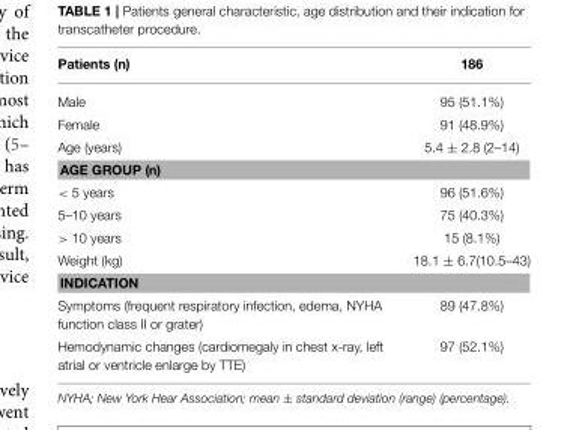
<table><thead><tr><td>Patients (n)</td><td>186</td></tr></thead><tbody><tr><td>Male</td><td>95 (51.1%)</td></tr><tr><td>Female</td><td>91 (48.9%)</td></tr><tr><td>Age (years)</td><td>5.4 ± 2.8 (2–14)</td></tr><tr><td colspan="2">AGE GROUP (n)</td></tr><tr><td>&lt; 5 years</td><td>96 (51.6%)</td></tr><tr><td>5–10 years</td><td>75 (40.3%)</td></tr><tr><td>&gt; 10 years</td><td>15 (8.1%)</td></tr><tr><td>Weight (kg)</td><td>18.1 ± 6.7(10.5–43)</td></tr><tr><td colspan="2">INDICATION</td></tr><tr><td>Symptoms (frequent respiratory infection, edema, NYHA function class II or grater)</td><td>89 (47.8%)</td></tr><tr><td>Hemodynamic changes (cardiomegaly in chest x-ray, left atrial or ventricle enlarge by TTE)</td><td>97 (52.1%)</td></tr></tbody></table>